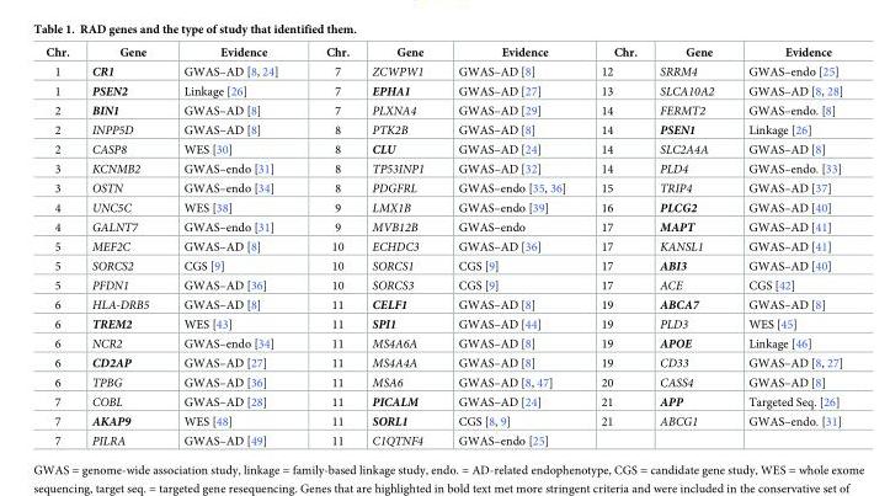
<table><thead><tr><td>Chr.</td><td>Gene</td><td>Evidence</td><td>Chr.</td><td>Gene</td><td>Evidence</td><td>Chr.</td><td>Gene</td><td>Evidence</td></tr></thead><tbody><tr><td>1</td><td>CR1</td><td>GWAS–AD [8, 24]</td><td>7</td><td>ZCWPW1</td><td>GWAS–AD [8]</td><td>12</td><td>SRRM4</td><td>GWAS–endo [25]</td></tr><tr><td>1</td><td>PSEN2</td><td>Linkage [26]</td><td>7</td><td>EPHA1</td><td>GWAS–AD [27]</td><td>13</td><td>SLCA10A2</td><td>GWAS–AD [8, 28]</td></tr><tr><td>2</td><td>BIN1</td><td>GWAS–AD [8]</td><td>7</td><td>PLXNA4</td><td>GWAS–AD [29]</td><td>14</td><td>FERMT2</td><td>GWAS–endo. [8]</td></tr><tr><td>2</td><td>INPP5D</td><td>GWAS–AD [8]</td><td>8</td><td>PTK2B</td><td>GWAS–AD [8]</td><td>14</td><td>PSEN1</td><td>Linkage [26]</td></tr><tr><td>2</td><td>CASP8</td><td>WES [30]</td><td>8</td><td>CLU</td><td>GWAS–AD [24]</td><td>14</td><td>SLC2A4A</td><td>GWAS–AD [8]</td></tr><tr><td>3</td><td>KCNMB2</td><td>GWAS–endo [31]</td><td>8</td><td>TP53INP1</td><td>GWAS–AD [32]</td><td>14</td><td>PLD4</td><td>GWAS–endo. [33]</td></tr><tr><td>3</td><td>OSTN</td><td>GWAS–endo [34]</td><td>8</td><td>PDGFRL</td><td>GWAS–endo [35, 36]</td><td>15</td><td>TRIP4</td><td>GWAS–AD [37]</td></tr><tr><td>4</td><td>UNC5C</td><td>WES [38]</td><td>9</td><td>LMX1B</td><td>GWAS–endo [39]</td><td>16</td><td>PLCG2</td><td>GWAS–AD [40]</td></tr><tr><td>4</td><td>GALNT7</td><td>GWAS–endo [31]</td><td>9</td><td>MVB12B</td><td>GWAS–endo</td><td>17</td><td>MAPT</td><td>GWAS–AD [41]</td></tr><tr><td>5</td><td>MEF2C</td><td>GWAS–AD [8]</td><td>10</td><td>ECHDC3</td><td>GWAS–AD [36]</td><td>17</td><td>KANSL1</td><td>GWAS–AD [41]</td></tr><tr><td>5</td><td>SORCS2</td><td>CGS [9]</td><td>10</td><td>SORCS1</td><td>CGS [9]</td><td>17</td><td>ABI3</td><td>GWAS–AD [40]</td></tr><tr><td>5</td><td>PFDN1</td><td>GWAS–AD [36]</td><td>10</td><td>SORCS3</td><td>CGS [9]</td><td>17</td><td>ACE</td><td>CGS [42]</td></tr><tr><td>6</td><td>HLA-DRB5</td><td>GWAS–AD [8]</td><td>11</td><td>CELF1</td><td>GWAS–AD [8]</td><td>19</td><td>ABCA7</td><td>GWAS–AD [8]</td></tr><tr><td>6</td><td>TREM2</td><td>WES [43]</td><td>11</td><td>SPI1</td><td>GWAS–AD [44]</td><td>19</td><td>PLD3</td><td>WES [45]</td></tr><tr><td>6</td><td>NCR2</td><td>GWAS–endo [34]</td><td>11</td><td>MS4A6A</td><td>GWAS–AD [8]</td><td>19</td><td>APOE</td><td>Linkage [46]</td></tr><tr><td>6</td><td>CD2AP</td><td>GWAS–AD [27]</td><td>11</td><td>MS4A4A</td><td>GWAS–AD [8]</td><td>19</td><td>CD33</td><td>GWAS–AD [8, 27]</td></tr><tr><td>6</td><td>TPBG</td><td>GWAS–AD [36]</td><td>11</td><td>MSA6</td><td>GWAS–AD [8, 47]</td><td>20</td><td>CASS4</td><td>GWAS–AD [8]</td></tr><tr><td>7</td><td>COBL</td><td>GWAS–AD [28]</td><td>11</td><td>PICALM</td><td>GWAS–AD [24]</td><td>21</td><td>APP</td><td>Targeted Seq. [26]</td></tr><tr><td>7</td><td>AKAP9</td><td>WES [48]</td><td>11</td><td>SORL1</td><td>CGS [8, 9]</td><td>21</td><td>ABCG1</td><td>GWAS–endo. [31]</td></tr><tr><td>7</td><td>PILRA</td><td>GWAS–AD [49]</td><td>11</td><td>C1QTNF4</td><td>GWAS–endo [25]</td><td></td><td></td><td></td></tr></tbody></table>